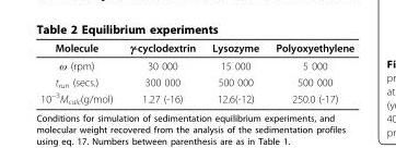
<table><thead><tr><td>Molecule</td><td>γ-cyclodextrin</td><td>Lysozyme</td><td>Polyoxyethylene</td></tr></thead><tbody><tr><td>ω (rpm)</td><td>30 000</td><td>15 000</td><td>5 000</td></tr><tr><td>t<sub>run</sub> (secs.)</td><td>300 000</td><td>500 000</td><td>500 000</td></tr><tr><td>10<sup>−3</sup>M<sub>calc</sub>(g/mol)</td><td>1.27 (-16)</td><td>12.6(-12)</td><td>250.0 (-17)</td></tr></tbody></table>